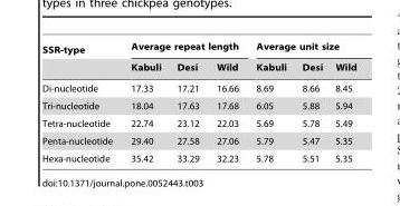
<table><thead><tr><td rowspan="2">SSR-type</td><td colspan="3">Average repeat length</td><td colspan="3">Average unit size</td></tr><tr><td>Kabuli</td><td>Desi</td><td>Wild</td><td>Kabuli</td><td>Desi</td><td>Wild</td></tr></thead><tbody><tr><td>Di-nucleotide</td><td>17.33</td><td>17.21</td><td>16.66</td><td>8.69</td><td>8.66</td><td>8.45</td></tr><tr><td>Tri-nucleotide</td><td>18.04</td><td>17.63</td><td>17.68</td><td>6.05</td><td>5.88</td><td>5.94</td></tr><tr><td>Tetra-nucleotide</td><td>22.74</td><td>23.12</td><td>22.03</td><td>5.69</td><td>5.78</td><td>5.49</td></tr><tr><td>Penta-nucleotide</td><td>29.40</td><td>27.58</td><td>27.06</td><td>5.79</td><td>5.47</td><td>5.35</td></tr><tr><td>Hexa-nucleotide</td><td>35.42</td><td>33.29</td><td>32.23</td><td>5.78</td><td>5.51</td><td>5.35</td></tr></tbody></table>